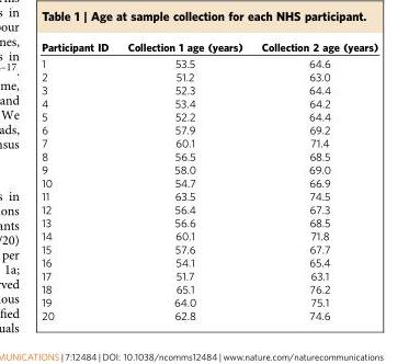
<table><thead><tr><td>Participant ID</td><td>Collection 1 age (years)</td><td>Collection 2 age (years)</td></tr></thead><tbody><tr><td>1</td><td>53.5</td><td>64.6</td></tr><tr><td>2</td><td>51.2</td><td>63.0</td></tr><tr><td>3</td><td>52.3</td><td>64.4</td></tr><tr><td>4</td><td>53.4</td><td>64.2</td></tr><tr><td>5</td><td>52.2</td><td>64.4</td></tr><tr><td>6</td><td>57.9</td><td>69.2</td></tr><tr><td>7</td><td>60.1</td><td>71.4</td></tr><tr><td>8</td><td>56.5</td><td>68.5</td></tr><tr><td>9</td><td>58.0</td><td>69.0</td></tr><tr><td>10</td><td>54.7</td><td>66.9</td></tr><tr><td>11</td><td>63.5</td><td>74.5</td></tr><tr><td>12</td><td>56.4</td><td>67.3</td></tr><tr><td>13</td><td>56.6</td><td>68.5</td></tr><tr><td>14</td><td>60.1</td><td>71.8</td></tr><tr><td>15</td><td>57.6</td><td>67.7</td></tr><tr><td>16</td><td>54.1</td><td>65.4</td></tr><tr><td>17</td><td>51.7</td><td>63.1</td></tr><tr><td>18</td><td>65.1</td><td>76.2</td></tr><tr><td>19</td><td>64.0</td><td>75.1</td></tr><tr><td>20</td><td>62.8</td><td>74.6</td></tr></tbody></table>